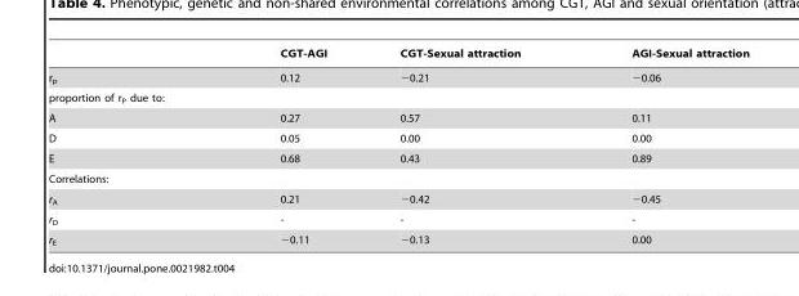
<table><thead><tr><td></td><td>CGT-AGI</td><td>CGT-Sexual attraction</td><td>AGI-Sexual attraction</td></tr></thead><tbody><tr><td>r<sub>p</sub></td><td>0.12</td><td>−0.21</td><td>−0.06</td></tr><tr><td colspan="4">proportion of r<sub>P</sub> due to:</td></tr><tr><td>A</td><td>0.27</td><td>0.57</td><td>0.11</td></tr><tr><td>D</td><td>0.05</td><td>0.00</td><td>0.00</td></tr><tr><td>E</td><td>0.68</td><td>0.43</td><td>0.89</td></tr><tr><td colspan="4">Correlations:</td></tr><tr><td>r<sub>A</sub></td><td>0.21</td><td>−0.42</td><td>−0.45</td></tr><tr><td>r<sub>D</sub></td><td>-</td><td>-</td><td>-</td></tr><tr><td>r<sub>E</sub></td><td>−0.11</td><td>−0.13</td><td>0.00</td></tr></tbody></table>